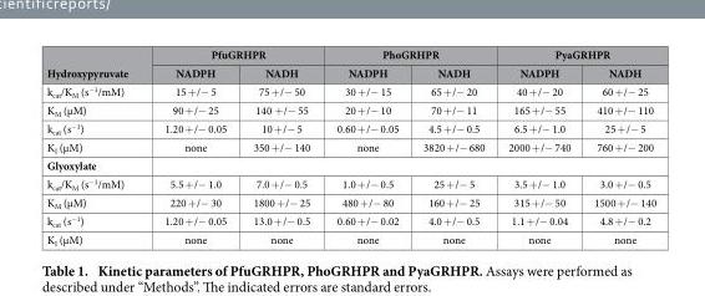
<table><thead><tr><td rowspan="2">Hydroxypyruvate</td><td colspan="2">PfuGRHPR</td><td colspan="2">PhoGRHPR</td><td colspan="2">PyaGRHPR</td></tr><tr><td>NADPH</td><td>NADH</td><td>NADPH</td><td>NADH</td><td>NADPH</td><td>NADH</td></tr></thead><tbody><tr><td>k<sub>cat</sub>/K<sub>M</sub> (s<sup>−1</sup>/mM)</td><td>15 + /− 5</td><td>75 + /− 50</td><td>30 + /− 15</td><td>65 + /− 20</td><td>40 + /− 20</td><td>60 + /− 25</td></tr><tr><td>K<sub>M</sub> (μM)</td><td>90 + /− 25</td><td>140 + /− 55</td><td>20 + /− 10</td><td>70 + /− 11</td><td>165 + /− 55</td><td>410 + /− 110</td></tr><tr><td>k<sub>cat</sub> (s<sup>−1</sup>)</td><td>1.20 + /− 0.05</td><td>10 + /− 5</td><td>0.60 + /− 0.05</td><td>4.5 + /− 0.5</td><td>6.5 + /− 1.0</td><td>25 + /− 5</td></tr><tr><td>K<sub>I</sub> (μM)</td><td>none</td><td>350 + /− 140</td><td>none</td><td>3820 + /− 680</td><td>2000 + /− 740</td><td>760 + /− 200</td></tr><tr><td colspan="7">Glyoxylate</td></tr><tr><td>k<sub>cat</sub>/K<sub>M</sub> (s<sup>−1</sup>/mM)</td><td>5.5 + /− 1.0</td><td>7.0 + /− 0.5</td><td>1.0 + /− 0.5</td><td>25 + /− 5</td><td>3.5 + /− 1.0</td><td>3.0 + /− 0.5</td></tr><tr><td>K<sub>M</sub> (μM)</td><td>220 + /− 30</td><td>1800 + /− 25</td><td>480 + /− 80</td><td>160 + /− 25</td><td>315 + /− 50</td><td>1500 + /− 140</td></tr><tr><td>k<sub>cat</sub> (s<sup>−1</sup>)</td><td>1.20 + /− 0.05</td><td>13.0 + /− 0.5</td><td>0.60 + /− 0.02</td><td>4.0 + /− 0.5</td><td>1.1 + /− 0.04</td><td>4.8 + /− 0.2</td></tr><tr><td>K<sub>I</sub> (μM)</td><td>none</td><td>none</td><td>none</td><td>none</td><td>none</td><td>none</td></tr></tbody></table>